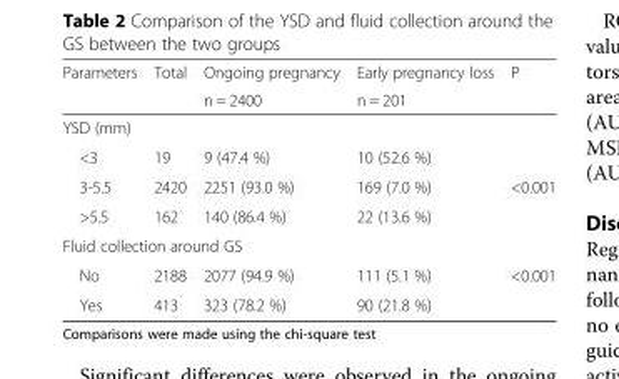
<table><thead><tr><td rowspan="2">Parameters</td><td rowspan="2">Total</td><td rowspan="2">Ongoing pregnancy n = 2400</td><td rowspan="2">Early pregnancy loss n = 201</td><td rowspan="2">P</td></tr><tr></tr></thead><tbody><tr><td colspan="5">YSD (mm)</td></tr><tr><td>&lt;3</td><td>19</td><td>9 (47.4 %)</td><td>10 (52.6 %)</td><td></td></tr><tr><td>3-5.5</td><td>2420</td><td>2251 (93.0 %)</td><td>169 (7.0 %)</td><td>&lt;0.001</td></tr><tr><td>&gt;5.5</td><td>162</td><td>140 (86.4 %)</td><td>22 (13.6 %)</td><td></td></tr><tr><td colspan="5">Fluid collection around GS</td></tr><tr><td>No</td><td>2188</td><td>2077 (94.9 %)</td><td>111 (5.1 %)</td><td>&lt;0.001</td></tr><tr><td>Yes</td><td>413</td><td>323 (78.2 %)</td><td>90 (21.8 %)</td><td></td></tr></tbody></table>